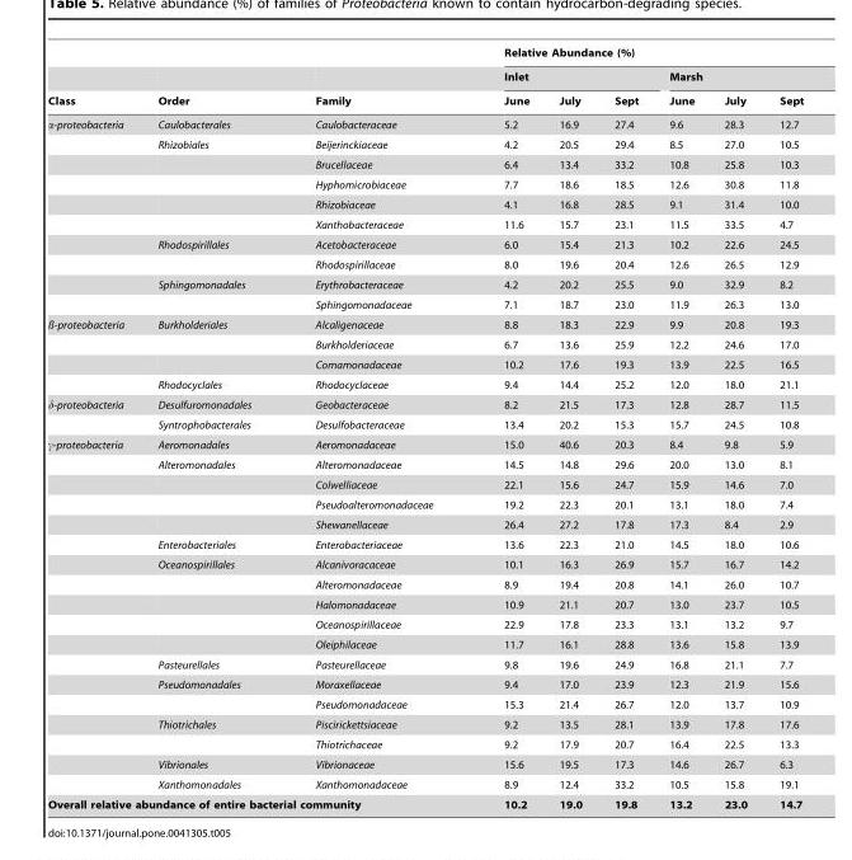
<table><thead><tr><td rowspan="3">Class</td><td rowspan="3">Order</td><td rowspan="3">Family</td><td colspan="6">Relative Abundance (%)</td></tr><tr><td colspan="3">Inlet</td><td colspan="3">Marsh</td></tr><tr><td>June</td><td>July</td><td>Sept</td><td>June</td><td>July</td><td>Sept</td></tr></thead><tbody><tr><td rowspan="10">α-proteobacteria</td><td>Caulobacterales</td><td>Caulobacteraceae</td><td>5.2</td><td>16.9</td><td>27.4</td><td>9.6</td><td>28.3</td><td>12.7</td></tr><tr><td>Rhizobiales</td><td>Beijerinckiaceae</td><td>4.2</td><td>20.5</td><td>29.4</td><td>8.5</td><td>27.0</td><td>10.5</td></tr><tr><td></td><td>Brucellaceae</td><td>6.4</td><td>13.4</td><td>33.2</td><td>10.8</td><td>25.8</td><td>10.3</td></tr><tr><td></td><td>Hyphomicrobiaceae</td><td>7.7</td><td>18.6</td><td>18.5</td><td>12.6</td><td>30.8</td><td>11.8</td></tr><tr><td></td><td>Rhizobiaceae</td><td>4.1</td><td>16.8</td><td>28.5</td><td>9.1</td><td>31.4</td><td>10.0</td></tr><tr><td></td><td>Xanthobacteraceae</td><td>11.6</td><td>15.7</td><td>23.1</td><td>11.5</td><td>33.5</td><td>4.7</td></tr><tr><td>Rhodospirillales</td><td>Acetobacteraceae</td><td>6.0</td><td>15.4</td><td>21.3</td><td>10.2</td><td>22.6</td><td>24.5</td></tr><tr><td></td><td>Rhodospirillaceae</td><td>8.0</td><td>19.6</td><td>20.4</td><td>12.6</td><td>26.5</td><td>12.9</td></tr><tr><td>Sphingomonadales</td><td>Erythrobacteraceae</td><td>4.2</td><td>20.2</td><td>25.5</td><td>9.0</td><td>32.9</td><td>8.2</td></tr><tr><td></td><td>Sphingomonadaceae</td><td>7.1</td><td>18.7</td><td>23.0</td><td>11.9</td><td>26.3</td><td>13.0</td></tr><tr><td rowspan="4">ß-proteobacteria</td><td>Burkholderiales</td><td>Alcaligenaceae</td><td>8.8</td><td>18.3</td><td>22.9</td><td>9.9</td><td>20.8</td><td>19.3</td></tr><tr><td></td><td>Burkholderiaceae</td><td>6.7</td><td>13.6</td><td>25.9</td><td>12.2</td><td>24.6</td><td>17.0</td></tr><tr><td></td><td>Comamonadaceae</td><td>10.2</td><td>17.6</td><td>19.3</td><td>13.9</td><td>22.5</td><td>16.5</td></tr><tr><td>Rhodocyclales</td><td>Rhodocyclaceae</td><td>9.4</td><td>14.4</td><td>25.2</td><td>12.0</td><td>18.0</td><td>21.1</td></tr><tr><td rowspan="2">δ-proteobacteria</td><td>Desulfuromonadales</td><td>Geobacteraceae</td><td>8.2</td><td>21.5</td><td>17.3</td><td>12.8</td><td>28.7</td><td>11.5</td></tr><tr><td>Syntrophobacterales</td><td>Desulfobacteraceae</td><td>13.4</td><td>20.2</td><td>15.3</td><td>15.7</td><td>24.5</td><td>10.8</td></tr><tr><td rowspan="18">γ-proteobacteria</td><td>Aeromonadales</td><td>Aeromonadaceae</td><td>15.0</td><td>40.6</td><td>20.3</td><td>8.4</td><td>9.8</td><td>5.9</td></tr><tr><td>Alteromonadales</td><td>Alteromonadaceae</td><td>14.5</td><td>14.8</td><td>29.6</td><td>20.0</td><td>13.0</td><td>8.1</td></tr><tr><td></td><td>Colwelliaceae</td><td>22.1</td><td>15.6</td><td>24.7</td><td>15.9</td><td>14.6</td><td>7.0</td></tr><tr><td></td><td>Pseudoalteromonadaceae</td><td>19.2</td><td>22.3</td><td>20.1</td><td>13.1</td><td>18.0</td><td>7.4</td></tr><tr><td></td><td>Shewanellaceae</td><td>26.4</td><td>27.2</td><td>17.8</td><td>17.3</td><td>8.4</td><td>2.9</td></tr><tr><td>Enterobacteriales</td><td>Enterobacteriaceae</td><td>13.6</td><td>22.3</td><td>21.0</td><td>14.5</td><td>18.0</td><td>10.6</td></tr><tr><td>Oceanospirillales</td><td>Alcanivoracaceae</td><td>10.1</td><td>16.3</td><td>26.9</td><td>15.7</td><td>16.7</td><td>14.2</td></tr><tr><td></td><td>Alteromonadaceae</td><td>8.9</td><td>19.4</td><td>20.8</td><td>14.1</td><td>26.0</td><td>10.7</td></tr><tr><td></td><td>Halomonadaceae</td><td>10.9</td><td>21.1</td><td>20.7</td><td>13.0</td><td>23.7</td><td>10.5</td></tr><tr><td></td><td>Oceanospirillaceae</td><td>22.9</td><td>17.8</td><td>23.3</td><td>13.1</td><td>13.2</td><td>9.7</td></tr><tr><td></td><td>Oleiphilaceae</td><td>11.7</td><td>16.1</td><td>28.8</td><td>13.6</td><td>15.8</td><td>13.9</td></tr><tr><td>Pasteurellales</td><td>Pasteurellaceae</td><td>9.8</td><td>19.6</td><td>24.9</td><td>16.8</td><td>21.1</td><td>7.7</td></tr><tr><td>Pseudomonadales</td><td>Moraxellaceae</td><td>9.4</td><td>17.0</td><td>23.9</td><td>12.3</td><td>21.9</td><td>15.6</td></tr><tr><td></td><td>Pseudomonadaceae</td><td>15.3</td><td>21.4</td><td>26.7</td><td>12.0</td><td>13.7</td><td>10.9</td></tr><tr><td>Thiotrichales</td><td>Piscirickettsiaceae</td><td>9.2</td><td>13.5</td><td>28.1</td><td>13.9</td><td>17.8</td><td>17.6</td></tr><tr><td></td><td>Thiotrichaceae</td><td>9.2</td><td>17.9</td><td>20.7</td><td>16.4</td><td>22.5</td><td>13.3</td></tr><tr><td>Vibrionales</td><td>Vibrionaceae</td><td>15.6</td><td>19.5</td><td>17.3</td><td>14.6</td><td>26.7</td><td>6.3</td></tr><tr><td>Xanthomonadales</td><td>Xanthomonadaceae</td><td>8.9</td><td>12.4</td><td>33.2</td><td>10.5</td><td>15.8</td><td>19.1</td></tr><tr><td colspan="3">Overall relative abundance of entire bacterial community</td><td>10.2</td><td>19.0</td><td>19.8</td><td>13.2</td><td>23.0</td><td>14.7</td></tr></tbody></table>